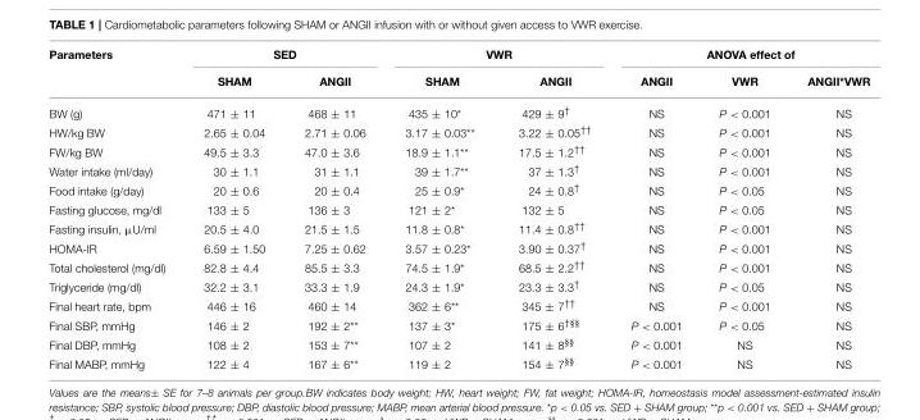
<table><thead><tr><td rowspan="2">Parameters</td><td colspan="2">SED</td><td colspan="2">VWR</td><td colspan="3">ANOVA effect of</td></tr><tr><td>SHAM</td><td>ANGII</td><td>SHAM</td><td>ANGII</td><td>ANGII</td><td>VWR</td><td>ANGII*VWR</td></tr></thead><tbody><tr><td>BW (g)</td><td>471 ± 11</td><td>468 ± 11</td><td>435 ± 10*</td><td>429 ± 9<sup>†</sup></td><td>NS</td><td>P &lt; 0.001</td><td>NS</td></tr><tr><td>HW/kg BW</td><td>2.65 ± 0.04</td><td>2.71 ± 0.06</td><td>3.17 ± 0.03**</td><td>3.22 ± 0.05<sup>††</sup></td><td>NS</td><td>P &lt; 0.001</td><td>NS</td></tr><tr><td>FW/kg BW</td><td>49.5 ± 3.3</td><td>47.0 ± 3.6</td><td>18.9 ± 1.1**</td><td>17.5 ± 1.2<sup>††</sup></td><td>NS</td><td>P &lt; 0.001</td><td>NS</td></tr><tr><td>Water intake (ml/day)</td><td>30 ± 1.1</td><td>31 ± 1.1</td><td>39 ± 1.7**</td><td>37 ± 1.3<sup>†</sup></td><td>NS</td><td>P &lt; 0.001</td><td>NS</td></tr><tr><td>Food intake (g/day)</td><td>20 ± 0.6</td><td>20 ± 0.4</td><td>25 ± 0.9*</td><td>24 ± 0.8<sup>†</sup></td><td>NS</td><td>P &lt; 0.05</td><td>NS</td></tr><tr><td>Fasting glucose, mg/dl</td><td>133 ± 5</td><td>136 ± 3</td><td>121 ± 2*</td><td>132 ± 5</td><td>NS</td><td>P &lt; 0.05</td><td>NS</td></tr><tr><td>Fasting insulin, µU/ml</td><td>20.5 ± 4.0</td><td>21.5 ± 1.5</td><td>11.8 ± 0.8*</td><td>11.4 ± 0.8<sup>††</sup></td><td>NS</td><td>P &lt; 0.001</td><td>NS</td></tr><tr><td>HOMA-IR</td><td>6.59 ± 1.50</td><td>7.25 ± 0.62</td><td>3.57 ± 0.23*</td><td>3.90 ± 0.37<sup>†</sup></td><td>NS</td><td>P &lt; 0.001</td><td>NS</td></tr><tr><td>Total cholesterol (mg/dl)</td><td>82.8 ± 4.4</td><td>85.5 ± 3.3</td><td>74.5 ± 1.9*</td><td>68.5 ± 2.2<sup>††</sup></td><td>NS</td><td>P &lt; 0.001</td><td>NS</td></tr><tr><td>Triglyceride (mg/dl)</td><td>32.2 ± 3.1</td><td>33.3 ± 1.9</td><td>24.3 ± 1.9*</td><td>23.3 ± 3.3<sup>†</sup></td><td>NS</td><td>P &lt; 0.05</td><td>NS</td></tr><tr><td>Final heart rate, bpm</td><td>446 ± 16</td><td>460 ± 14</td><td>362 ± 6**</td><td>345 ± 7<sup>††</sup></td><td>NS</td><td>P &lt; 0.001</td><td>NS</td></tr><tr><td>Final SBP, mmHg</td><td>146 ± 2</td><td>192 ± 2**</td><td>137 ± 3*</td><td>175 ± 6<sup>†§§</sup></td><td>P &lt; 0.001</td><td>P &lt; 0.05</td><td>NS</td></tr><tr><td>Final DBP, mmHg</td><td>108 ± 2</td><td>153 ± 7**</td><td>107 ± 2</td><td>141 ± 8<sup>§§</sup></td><td>P &lt; 0.001</td><td>NS</td><td>NS</td></tr><tr><td>Final MABP, mmHg</td><td>122 ± 4</td><td>167 ± 6**</td><td>119 ± 2</td><td>154 ± 7<sup>§§</sup></td><td>P &lt; 0.001</td><td>NS</td><td>NS</td></tr></tbody></table>